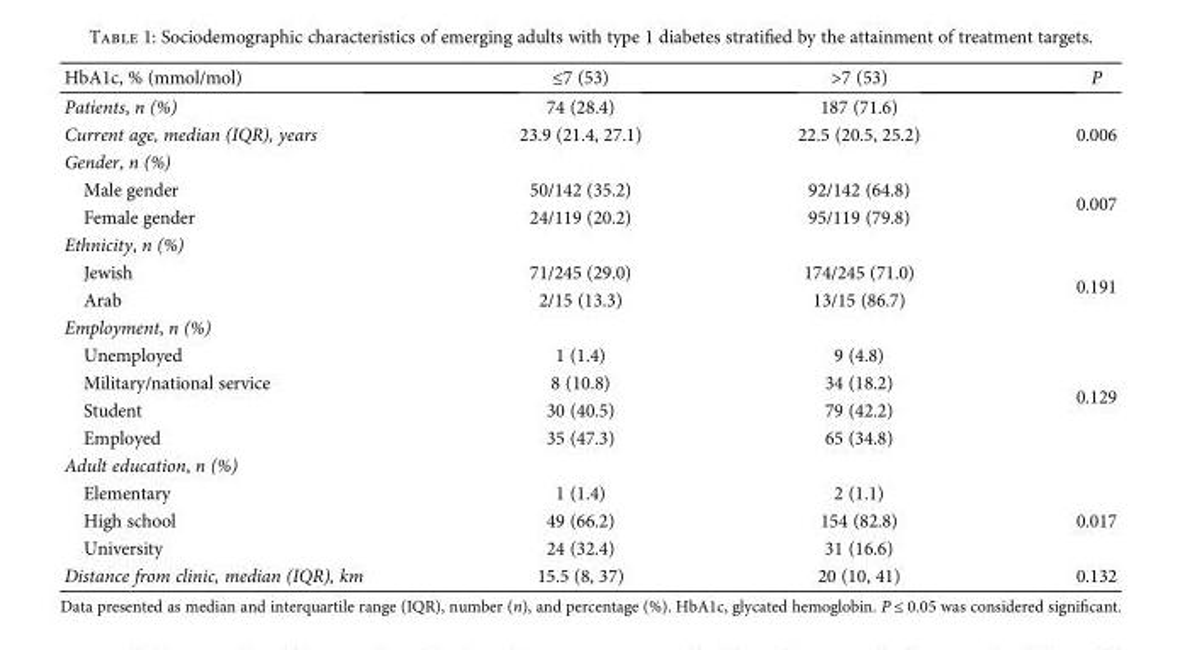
<table><thead><tr><td>HbA1c, % (mmol/mol)</td><td>≤7 (53)</td><td>&gt;7 (53)</td><td>P</td></tr></thead><tbody><tr><td>Patients, n (%)</td><td>74 (28.4)</td><td>187 (71.6)</td><td></td></tr><tr><td>Current age, median (IQR), years</td><td>23.9 (21.4, 27.1)</td><td>22.5 (20.5, 25.2)</td><td>0.006</td></tr><tr><td colspan="4">Gender, n (%)</td></tr><tr><td>Male gender</td><td>50/142 (35.2)</td><td>92/142 (64.8)</td><td rowspan="2">0.007</td></tr><tr><td>Female gender</td><td>24/119 (20.2)</td><td>95/119 (79.8)</td></tr><tr><td colspan="4">Ethnicity, n (%)</td></tr><tr><td>Jewish</td><td>71/245 (29.0)</td><td>174/245 (71.0)</td><td rowspan="2">0.191</td></tr><tr><td>Arab</td><td>2/15 (13.3)</td><td>13/15 (86.7)</td></tr><tr><td colspan="4">Employment, n (%)</td></tr><tr><td>Unemployed</td><td>1 (1.4)</td><td>9 (4.8)</td><td rowspan="4">0.129</td></tr><tr><td>Military/national service</td><td>8 (10.8)</td><td>34 (18.2)</td></tr><tr><td>Student</td><td>30 (40.5)</td><td>79 (42.2)</td></tr><tr><td>Employed</td><td>35 (47.3)</td><td>65 (34.8)</td></tr><tr><td colspan="4">Adult education, n (%)</td></tr><tr><td>Elementary</td><td>1 (1.4)</td><td>2 (1.1)</td><td rowspan="3">0.017</td></tr><tr><td>High school</td><td>49 (66.2)</td><td>154 (82.8)</td></tr><tr><td>University</td><td>24 (32.4)</td><td>31 (16.6)</td></tr><tr><td>Distance from clinic, median (IQR), km</td><td>15.5 (8, 37)</td><td>20 (10, 41)</td><td>0.132</td></tr></tbody></table>